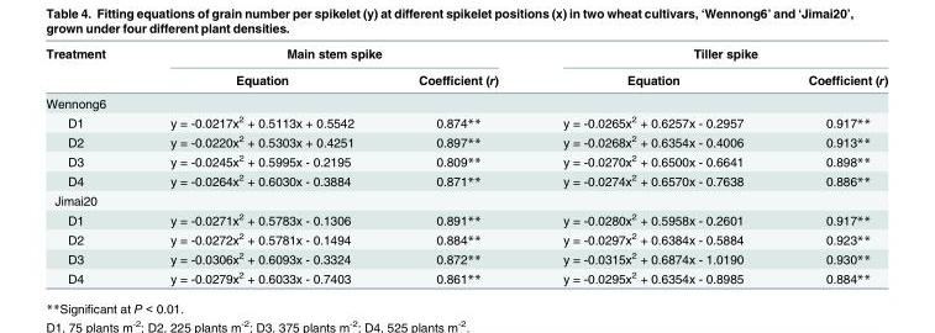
<table><thead><tr><td rowspan="2">Treatment</td><td colspan="2">Main stem spike</td><td colspan="2">Tiller spike</td></tr><tr><td>Equation</td><td>Coefficient (r)</td><td>Equation</td><td>Coefficient (r)</td></tr></thead><tbody><tr><td colspan="5">Wennong6</td></tr><tr><td>D1</td><td>y = -0.0217x<sup>2</sup> + 0.5113x + 0.5542</td><td>0.874**</td><td>y = -0.0265x<sup>2</sup> + 0.6257x - 0.2957</td><td>0.917**</td></tr><tr><td>D2</td><td>y = -0.0220x<sup>2</sup> + 0.5303x + 0.4251</td><td>0.897**</td><td>y = -0.0268x<sup>2</sup> + 0.6354x - 0.4006</td><td>0.913**</td></tr><tr><td>D3</td><td>y = -0.0245x<sup>2</sup> + 0.5995x - 0.2195</td><td>0.809**</td><td>y = -0.0270x<sup>2</sup> + 0.6500x - 0.6641</td><td>0.898**</td></tr><tr><td>D4</td><td>y = -0.0264x<sup>2</sup> + 0.6030x - 0.3884</td><td>0.871**</td><td>y = -0.0274x<sup>2</sup> + 0.6570x - 0.7638</td><td>0.886**</td></tr><tr><td colspan="5">Jimai20</td></tr><tr><td>D1</td><td>y = -0.0271x<sup>2</sup> + 0.5783x - 0.1306</td><td>0.891**</td><td>y = -0.0280x<sup>2</sup> + 0.5958x - 0.2601</td><td>0.917**</td></tr><tr><td>D2</td><td>y = -0.0272x<sup>2</sup> + 0.5781x - 0.1494</td><td>0.884**</td><td>y = -0.0297x<sup>2</sup> + 0.6384x - 0.5884</td><td>0.923**</td></tr><tr><td>D3</td><td>y = -0.0306x<sup>2</sup> + 0.6093x - 0.3324</td><td>0.872**</td><td>y = -0.0315x<sup>2</sup> + 0.6874x - 1.0190</td><td>0.930**</td></tr><tr><td>D4</td><td>y = -0.0279x<sup>2</sup> + 0.6033x - 0.7403</td><td>0.861**</td><td>y = -0.0295x<sup>2</sup> + 0.6354x - 0.8985</td><td>0.884**</td></tr></tbody></table>